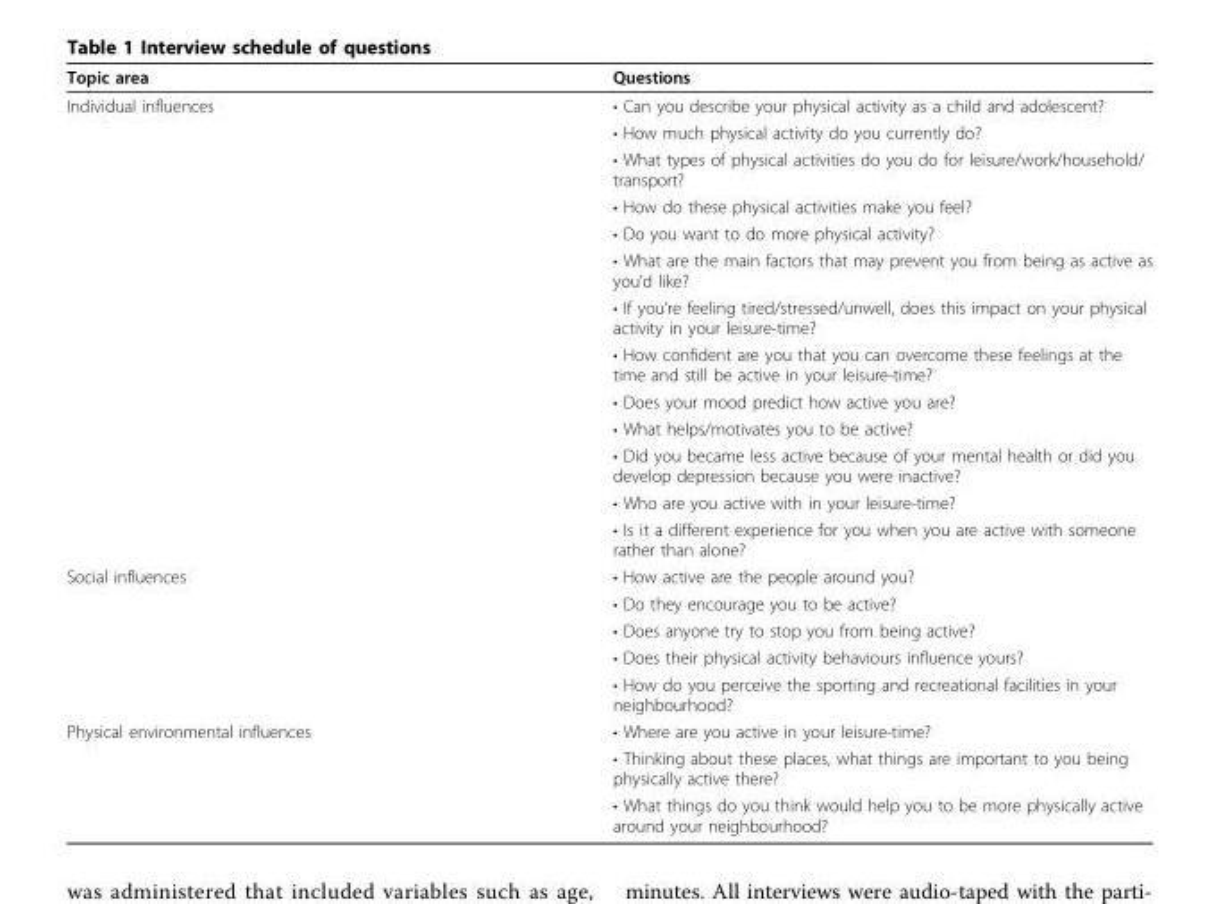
<table><thead><tr><td>Topic area</td><td>Questions</td></tr></thead><tbody><tr><td rowspan="13">Individual influences</td><td>• Can you describe your physical activity as a child and adolescent?</td></tr><tr><td>• How much physical activity do you currently do?</td></tr><tr><td>• What types of physical activities do you do for leisure/work/household/ transport?</td></tr><tr><td>• How do these physical activities make you feel?</td></tr><tr><td>• Do you want to do more physical activity?</td></tr><tr><td>• What are the main factors that may prevent you from being as active as you’d like?</td></tr><tr><td>• If you’re feeling tired/stressed/unwell, does this impact on your physical activity in your leisure-time?</td></tr><tr><td>• How confident are you that you can overcome these feelings at the time and still be active in your leisure-time?</td></tr><tr><td>• Does your mood predict how active you are?</td></tr><tr><td>• What helps/motivates you to be active?</td></tr><tr><td>• Did you became less active because of your mental health or did you develop depression because you were inactive?</td></tr><tr><td>• Who are you active with in your leisure-time?</td></tr><tr><td>• Is it a different experience for you when you are active with someone rather than alone?</td></tr><tr><td rowspan="5">Social influences</td><td>• How active are the people around you?</td></tr><tr><td>• Do they encourage you to be active?</td></tr><tr><td>• Does anyone try to stop you from being active?</td></tr><tr><td>• Does their physical activity behaviours influence yours?</td></tr><tr><td>• How do you perceive the sporting and recreational facilities in your neighbourhood?</td></tr><tr><td rowspan="3">Physical environmental influences</td><td>• Where are you active in your leisure-time?</td></tr><tr><td>• Thinking about these places, what things are important to you being physically active there?</td></tr><tr><td>• What things do you think would help you to be more physically active around your neighbourhood?</td></tr></tbody></table>